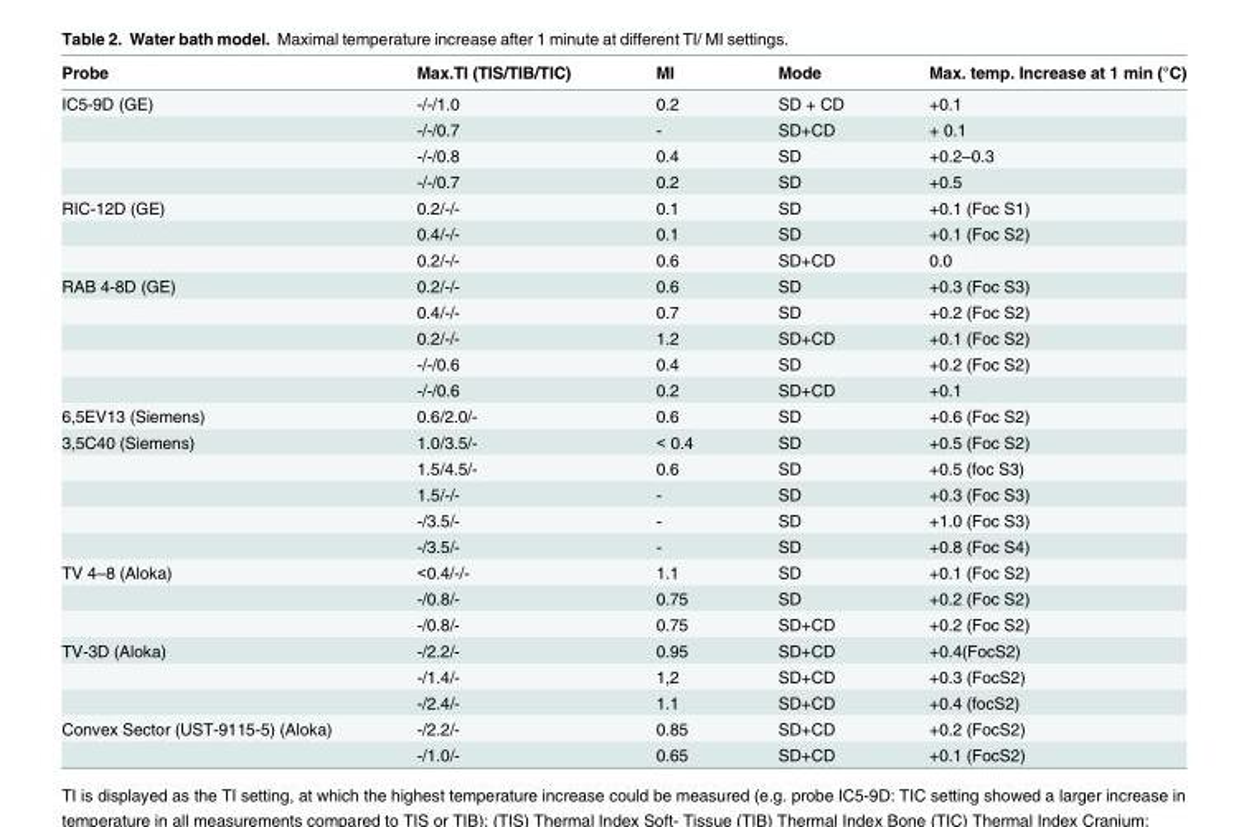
<table><thead><tr><td>Probe</td><td>Max.TI (TIS/TIB/TIC)</td><td>MI</td><td>Mode</td><td>Max. temp. Increase at 1 min (°C)</td></tr></thead><tbody><tr><td rowspan="4">IC5-9D (GE)</td><td>-/-/1.0</td><td>0.2</td><td>SD + CD</td><td>+0.1</td></tr><tr><td>-/-/0.7</td><td>-</td><td>SD+CD</td><td>+ 0.1</td></tr><tr><td>-/-/0.8</td><td>0.4</td><td>SD</td><td>+0.2–0.3</td></tr><tr><td>-/-/0.7</td><td>0.2</td><td>SD</td><td>+0.5</td></tr><tr><td rowspan="3">RIC-12D (GE)</td><td>0.2/-/-</td><td>0.1</td><td>SD</td><td>+0.1 (Foc S1)</td></tr><tr><td>0.4/-/-</td><td>0.1</td><td>SD</td><td>+0.1 (Foc S2)</td></tr><tr><td>0.2/-/-</td><td>0.6</td><td>SD+CD</td><td>0.0</td></tr><tr><td rowspan="5">RAB 4-8D (GE)</td><td>0.2/-/-</td><td>0.6</td><td>SD</td><td>+0.3 (Foc S3)</td></tr><tr><td>0.4/-/-</td><td>0.7</td><td>SD</td><td>+0.2 (Foc S2)</td></tr><tr><td>0.2/-/-</td><td>1.2</td><td>SD+CD</td><td>+0.1 (Foc S2)</td></tr><tr><td>-/-/0.6</td><td>0.4</td><td>SD</td><td>+0.2 (Foc S2)</td></tr><tr><td>-/-/0.6</td><td>0.2</td><td>SD+CD</td><td>+0.1</td></tr><tr><td>6,5EV13 (Siemens)</td><td>0.6/2.0/-</td><td>0.6</td><td>SD</td><td>+0.6 (Foc S2)</td></tr><tr><td rowspan="5">3,5C40 (Siemens)</td><td>1.0/3.5/-</td><td>&lt; 0.4</td><td>SD</td><td>+0.5 (Foc S2)</td></tr><tr><td>1.5/4.5/-</td><td>0.6</td><td>SD</td><td>+0.5 (foc S3)</td></tr><tr><td>1.5/-/-</td><td>-</td><td>SD</td><td>+0.3 (Foc S3)</td></tr><tr><td>-/3.5/-</td><td>-</td><td>SD</td><td>+1.0 (Foc S3)</td></tr><tr><td>-/3.5/-</td><td>-</td><td>SD</td><td>+0.8 (Foc S4)</td></tr><tr><td rowspan="3">TV 4–8 (Aloka)</td><td>&lt;0.4/-/-</td><td>1.1</td><td>SD</td><td>+0.1 (Foc S2)</td></tr><tr><td>-/0.8/-</td><td>0.75</td><td>SD</td><td>+0.2 (Foc S2)</td></tr><tr><td>-/0.8/-</td><td>0.75</td><td>SD+CD</td><td>+0.2 (Foc S2)</td></tr><tr><td rowspan="3">TV-3D (Aloka)</td><td>-/2.2/-</td><td>0.95</td><td>SD+CD</td><td>+0.4(FocS2)</td></tr><tr><td>-/1.4/-</td><td>1,2</td><td>SD+CD</td><td>+0.3 (FocS2)</td></tr><tr><td>-/2.4/-</td><td>1.1</td><td>SD+CD</td><td>+0.4 (focS2)</td></tr><tr><td rowspan="2">Convex Sector (UST-9115-5) (Aloka)</td><td>-/2.2/-</td><td>0.85</td><td>SD+CD</td><td>+0.2 (FocS2)</td></tr><tr><td>-/1.0/-</td><td>0.65</td><td>SD+CD</td><td>+0.1 (FocS2)</td></tr></tbody></table>